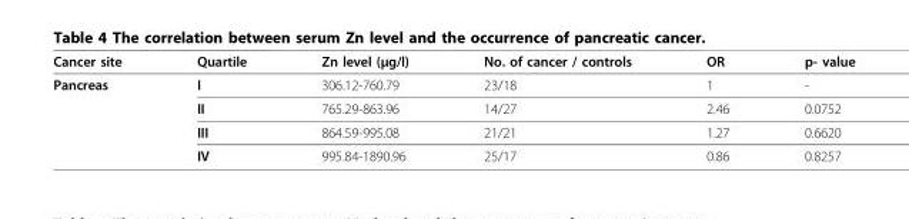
<table><thead><tr><td>Cancer site</td><td>Quartile</td><td>Zn level (µg/l)</td><td>No. of cancer / controls</td><td>OR</td><td>p- value</td></tr></thead><tbody><tr><td rowspan="4">Pancreas</td><td>I</td><td>306.12-760.79</td><td>23/18</td><td>1</td><td>-</td></tr><tr><td>II</td><td>765.29-863.96</td><td>14/27</td><td>2.46</td><td>0.0752</td></tr><tr><td>III</td><td>864.59-995.08</td><td>21/21</td><td>1.27</td><td>0.6620</td></tr><tr><td>IV</td><td>995.84-1890.96</td><td>25/17</td><td>0.86</td><td>0.8257</td></tr></tbody></table>